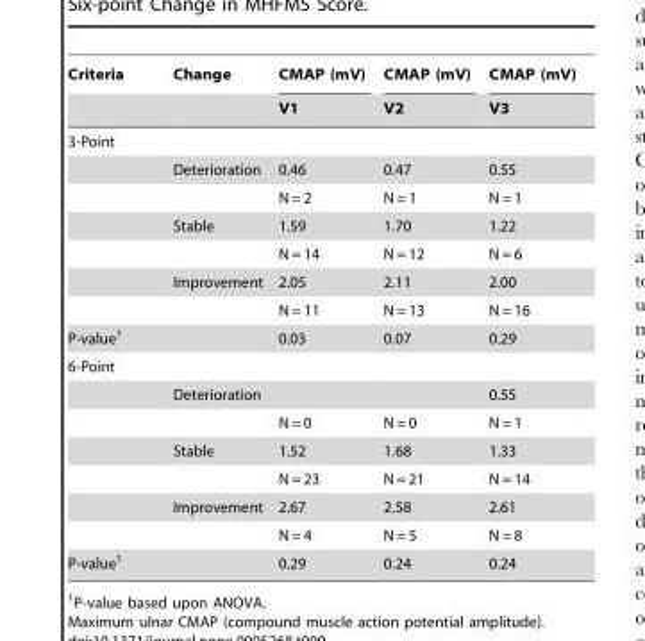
<table><thead><tr><td rowspan="2">Criteria</td><td rowspan="2">Change</td><td rowspan="2">CMAP (mV) V1</td><td rowspan="2">CMAP (mV) V2</td><td rowspan="2">CMAP (mV) V3</td></tr><tr></tr></thead><tbody><tr><td colspan="5">3-Point</td></tr><tr><td></td><td>Deterioration</td><td>0.46</td><td>0.47</td><td>0.55</td></tr><tr><td></td><td></td><td>N = 2</td><td>N = 1</td><td>N = 1</td></tr><tr><td></td><td>Stable</td><td>1.59</td><td>1.70</td><td>1.22</td></tr><tr><td></td><td></td><td>N = 14</td><td>N = 12</td><td>N = 6</td></tr><tr><td></td><td>Improvement</td><td>2.05</td><td>2.11</td><td>2.00</td></tr><tr><td></td><td></td><td>N = 11</td><td>N = 13</td><td>N = 16</td></tr><tr><td>P-value<sup>1</sup></td><td></td><td>0.03</td><td>0.07</td><td>0.29</td></tr><tr><td colspan="5">6-Point</td></tr><tr><td></td><td>Deterioration</td><td></td><td></td><td>0.55</td></tr><tr><td></td><td></td><td>N = 0</td><td>N = 0</td><td>N = 1</td></tr><tr><td></td><td>Stable</td><td>1.52</td><td>1.68</td><td>1.33</td></tr><tr><td></td><td></td><td>N = 23</td><td>N = 21</td><td>N = 14</td></tr><tr><td></td><td>Improvement</td><td>2.67</td><td>2.58</td><td>2.61</td></tr><tr><td></td><td></td><td>N = 4</td><td>N = 5</td><td>N = 8</td></tr><tr><td>P-value<sup>1</sup></td><td></td><td>0.29</td><td>0.24</td><td>0.24</td></tr></tbody></table>